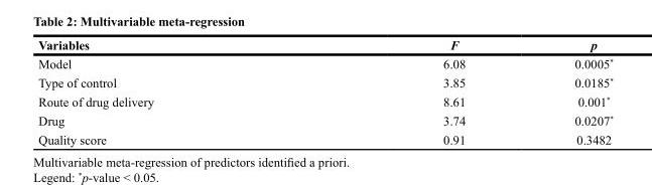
<table><thead><tr><td>Variables</td><td>F</td><td>p</td></tr></thead><tbody><tr><td>Model</td><td>6.08</td><td>0.0005*</td></tr><tr><td>Type of control</td><td>3.85</td><td>0.0185*</td></tr><tr><td>Route of drug delivery</td><td>8.61</td><td>0.001*</td></tr><tr><td>Drug</td><td>3.74</td><td>0.0207*</td></tr><tr><td>Quality score</td><td>0.91</td><td>0.3482</td></tr></tbody></table>